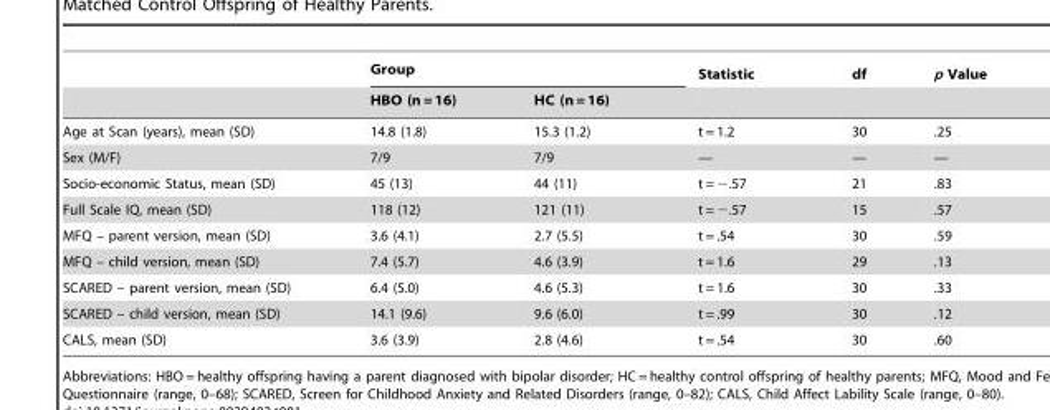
<table><thead><tr><td rowspan="2"></td><td colspan="2">Group</td><td rowspan="2">Statistic</td><td rowspan="2">df</td><td rowspan="2">p Value</td></tr><tr><td>HBO (n = 16)</td><td>HC (n = 16)</td></tr></thead><tbody><tr><td>Age at Scan (years), mean (SD)</td><td>14.8 (1.8)</td><td>15.3 (1.2)</td><td>t = 1.2</td><td>30</td><td>.25</td></tr><tr><td>Sex (M/F)</td><td>7/9</td><td>7/9</td><td>—</td><td>—</td><td>—</td></tr><tr><td>Socio-economic Status, mean (SD)</td><td>45 (13)</td><td>44 (11)</td><td>t = −.57</td><td>21</td><td>.83</td></tr><tr><td>Full Scale IQ, mean (SD)</td><td>118 (12)</td><td>121 (11)</td><td>t = −.57</td><td>15</td><td>.57</td></tr><tr><td>MFQ – parent version, mean (SD)</td><td>3.6 (4.1)</td><td>2.7 (5.5)</td><td>t = .54</td><td>30</td><td>.59</td></tr><tr><td>MFQ – child version, mean (SD)</td><td>7.4 (5.7)</td><td>4.6 (3.9)</td><td>t = 1.6</td><td>29</td><td>.13</td></tr><tr><td>SCARED – parent version, mean (SD)</td><td>6.4 (5.0)</td><td>4.6 (5.3)</td><td>t = 1.6</td><td>30</td><td>.33</td></tr><tr><td>SCARED – child version, mean (SD)</td><td>14.1 (9.6)</td><td>9.6 (6.0)</td><td>t = .99</td><td>30</td><td>.12</td></tr><tr><td>CALS, mean (SD)</td><td>3.6 (3.9)</td><td>2.8 (4.6)</td><td>t = .54</td><td>30</td><td>.60</td></tr></tbody></table>